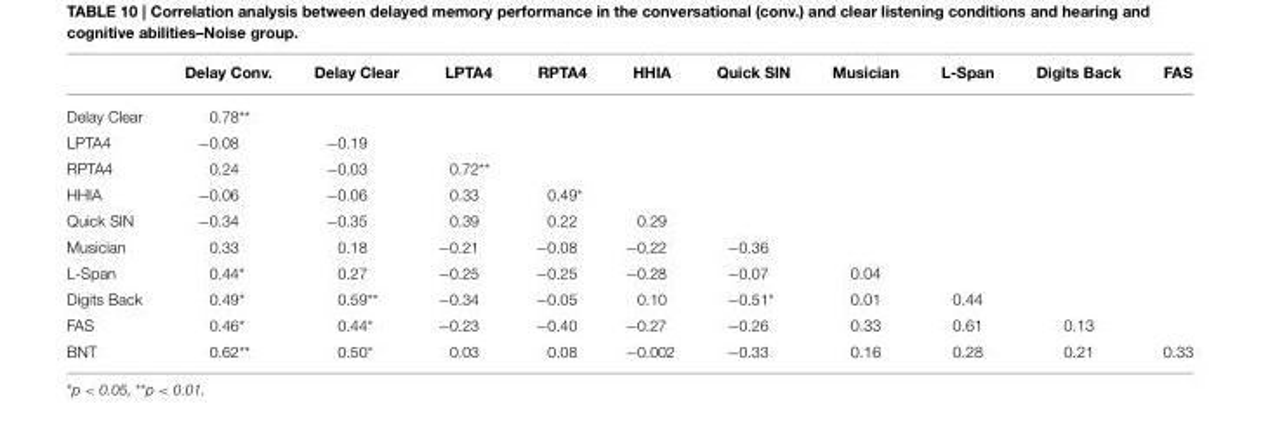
<table><thead><tr><td></td><td>Delay Conv.</td><td>Delay Clear</td><td>LPTA4</td><td>RPTA4</td><td>HHIA</td><td>Quick SIN</td><td>Musician</td><td>L-Span</td><td>Digits Back</td><td>FAS</td></tr></thead><tbody><tr><td>Delay Clear</td><td>0.78**</td><td></td><td></td><td></td><td></td><td></td><td></td><td></td><td></td><td></td></tr><tr><td>LPTA4</td><td>−0.08</td><td>−0.19</td><td></td><td></td><td></td><td></td><td></td><td></td><td></td><td></td></tr><tr><td>RPTA4</td><td>0.24</td><td>−0.03</td><td>0.72**</td><td></td><td></td><td></td><td></td><td></td><td></td><td></td></tr><tr><td>HHIA</td><td>−0.06</td><td>−0.06</td><td>0.33</td><td>0.49*</td><td></td><td></td><td></td><td></td><td></td><td></td></tr><tr><td>Quick SIN</td><td>−0.34</td><td>−0.35</td><td>0.39</td><td>0.22</td><td>0.29</td><td></td><td></td><td></td><td></td><td></td></tr><tr><td>Musician</td><td>0.33</td><td>0.18</td><td>−0.21</td><td>−0.08</td><td>−0.22</td><td>−0.36</td><td></td><td></td><td></td><td></td></tr><tr><td>L-Span</td><td>0.44*</td><td>0.27</td><td>−0.25</td><td>−0.25</td><td>−0.28</td><td>−0.07</td><td>0.04</td><td></td><td></td><td></td></tr><tr><td>Digits Back</td><td>0.49*</td><td>0.59**</td><td>−0.34</td><td>−0.05</td><td>0.10</td><td>−0.51*</td><td>0.01</td><td>0.44</td><td></td><td></td></tr><tr><td>FAS</td><td>0.46*</td><td>0.44*</td><td>−0.23</td><td>−0.40</td><td>−0.27</td><td>−0.26</td><td>0.33</td><td>0.61</td><td>0.13</td><td></td></tr><tr><td>BNT</td><td>0.62**</td><td>0.50*</td><td>0.03</td><td>0.08</td><td>−0.002</td><td>−0.33</td><td>0.16</td><td>0.28</td><td>0.21</td><td>0.33</td></tr></tbody></table>